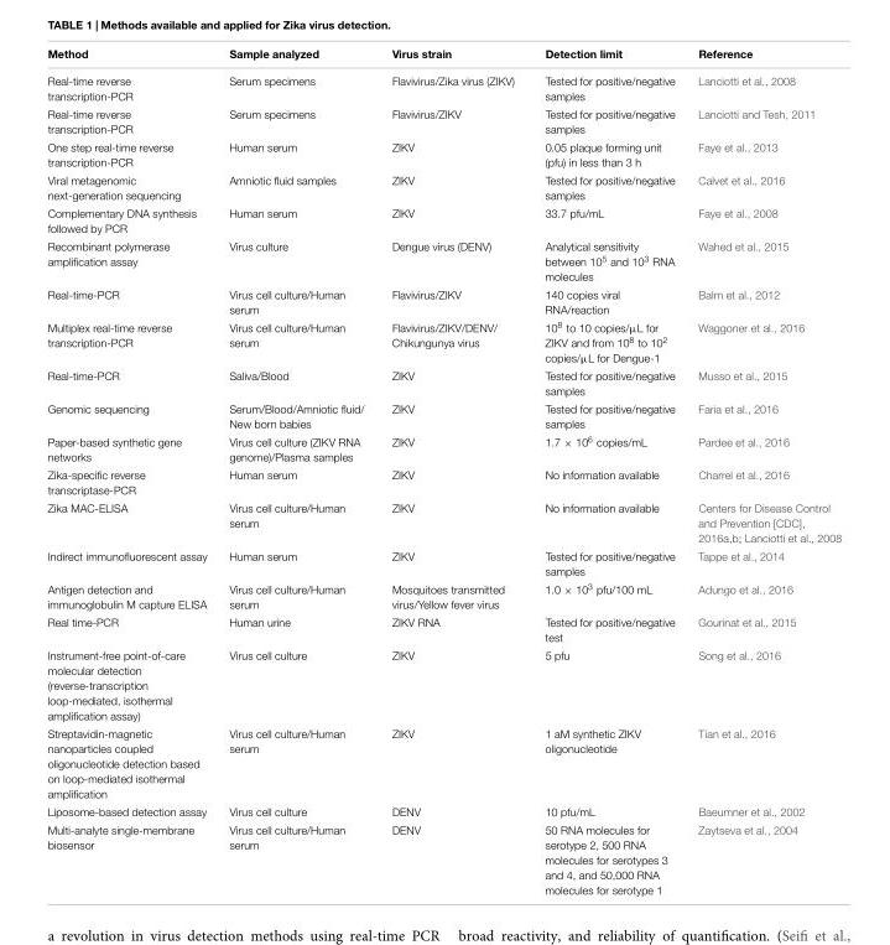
<table><thead><tr><td>Method</td><td>Sample analyzed</td><td>Virus strain</td><td>Detection limit</td><td>Reference</td></tr></thead><tbody><tr><td>Real-time reverse transcription-PCR</td><td>Serum specimens</td><td>Flavivirus/Zika virus (ZIKV)</td><td>Tested for positive/negative samples</td><td>Lanciotti et al., 2008</td></tr><tr><td>Real-time reverse transcription-PCR</td><td>Serum specimens</td><td>Flavivirus/ZIKV</td><td>Tested for positive/negative samples</td><td>Lanciotti and Tesh, 2011</td></tr><tr><td>One step real-time reverse transcription-PCR</td><td>Human serum</td><td>ZIKV</td><td>0.05 plaque forming unit (pfu) in less than 3 h</td><td>Faye et al., 2013</td></tr><tr><td>Viral metagenomic next-generation sequencing</td><td>Amniotic fluid samples</td><td>ZIKV</td><td>Tested for positive/negative samples</td><td>Calvet et al., 2016</td></tr><tr><td>Complementary DNA synthesis followed by PCR</td><td>Human serum</td><td>ZIKV</td><td>33.7 pfu/mL</td><td>Faye et al., 2008</td></tr><tr><td>Recombinant polymerase amplification assay</td><td>Virus culture</td><td>Dengue virus (DENV)</td><td>Analytical sensitivity between 10<sup>5</sup> and 10<sup>3</sup> RNA molecules</td><td>Wahed et al., 2015</td></tr><tr><td>Real-time-PCR</td><td>Virus cell culture/Human serum</td><td>Flavivirus/ZIKV</td><td>140 copies viral RNA/reaction</td><td>Balm et al., 2012</td></tr><tr><td>Multiplex real-time reverse transcription-PCR</td><td>Virus cell culture/Human serum</td><td>Flavivirus/ZIKV/DENV/ Chikungunya virus</td><td>10<sup>8</sup> to 10 copies/µL for ZIKV and from 10<sup>8</sup> to 10<sup>2</sup> copies/µL for Dengue-1</td><td>Waggoner et al., 2016</td></tr><tr><td>Real-time-PCR</td><td>Saliva/Blood</td><td>ZIKV</td><td>Tested for positive/negative samples</td><td>Musso et al., 2015</td></tr><tr><td>Genomic sequencing</td><td>Serum/Blood/Amniotic fluid/ New born babies</td><td>ZIKV</td><td>Tested for positive/negative samples</td><td>Faria et al., 2016</td></tr><tr><td>Paper-based synthetic gene networks</td><td>Virus cell culture (ZIKV RNA genome)/Plasma samples</td><td>ZIKV</td><td>1.7 × 10<sup>6</sup> copies/mL</td><td>Pardee et al., 2016</td></tr><tr><td>Zika-specific reverse transcriptase-PCR</td><td>Human serum</td><td>ZIKV</td><td>No information available</td><td>Charrel et al., 2016</td></tr><tr><td>Zika MAC-ELISA</td><td>Virus cell culture/Human serum</td><td>ZIKV</td><td>No information available</td><td>Centers for Disease Control and Prevention [CDC], 2016a,b; Lanciotti et al., 2008</td></tr><tr><td>Indirect immunofluorescent assay</td><td>Human serum</td><td>ZIKV</td><td>Tested for positive/negative samples</td><td>Tappe et al., 2014</td></tr><tr><td>Antigen detection and immunoglobulin M capture ELISA</td><td>Virus cell culture/Human serum</td><td>Mosquitoes transmitted virus/Yellow fever virus</td><td>1.0 × 10<sup>3</sup> pfu/100 mL</td><td>Adungo et al., 2016</td></tr><tr><td>Real time-PCR</td><td>Human urine</td><td>ZIKV RNA</td><td>Tested for positive/negative test</td><td>Gourinat et al., 2015</td></tr><tr><td>Instrument-free point-of-care molecular detection (reverse-transcription loop-mediated, isothermal amplification assay)</td><td>Virus cell culture</td><td>ZIKV</td><td>5 pfu</td><td>Song et al., 2016</td></tr><tr><td>Streptavidin-magnetic nanoparticles coupled oligonucleotide detection based on loop-mediated isothermal amplification</td><td>Virus cell culture/Human serum</td><td>ZIKV</td><td>1 aM synthetic ZIKV oligonucleotide</td><td>Tian et al., 2016</td></tr><tr><td>Liposome-based detection assay</td><td>Virus cell culture</td><td>DENV</td><td>10 pfu/mL</td><td>Baeumner et al., 2002</td></tr><tr><td>Multi-analyte single-membrane biosensor</td><td>Virus cell culture/Human serum</td><td>DENV</td><td>50 RNA molecules for serotype 2, 500 RNA molecules for serotypes 3 and 4, and 50,000 RNA molecules for serotype 1</td><td>Zaytseva et al., 2004</td></tr></tbody></table>